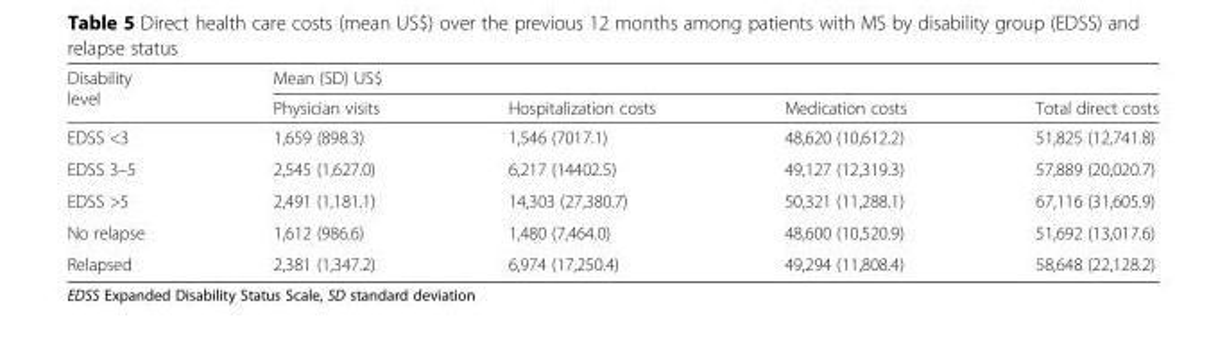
<table><thead><tr><td rowspan="2">Disability level</td><td colspan="4">Mean (SD) US$</td></tr><tr><td>Physician visits</td><td>Hospitalization costs</td><td>Medication costs</td><td>Total direct costs</td></tr></thead><tbody><tr><td>EDSS &lt;3</td><td>1,659 (898.3)</td><td>1,546 (7017.1)</td><td>48,620 (10,612.2)</td><td>51,825 (12,741.8)</td></tr><tr><td>EDSS 3–5</td><td>2,545 (1,627.0)</td><td>6,217 (14402.5)</td><td>49,127 (12,319.3)</td><td>57,889 (20,020.7)</td></tr><tr><td>EDSS &gt;5</td><td>2,491 (1,181.1)</td><td>14,303 (27,380.7)</td><td>50,321 (11,288.1)</td><td>67,116 (31,605.9)</td></tr><tr><td>No relapse</td><td>1,612 (986.6)</td><td>1,480 (7,464.0)</td><td>48,600 (10,520.9)</td><td>51,692 (13,017.6)</td></tr><tr><td>Relapsed</td><td>2,381 (1,347.2)</td><td>6,974 (17,250.4)</td><td>49,294 (11,808.4)</td><td>58,648 (22,128.2)</td></tr></tbody></table>